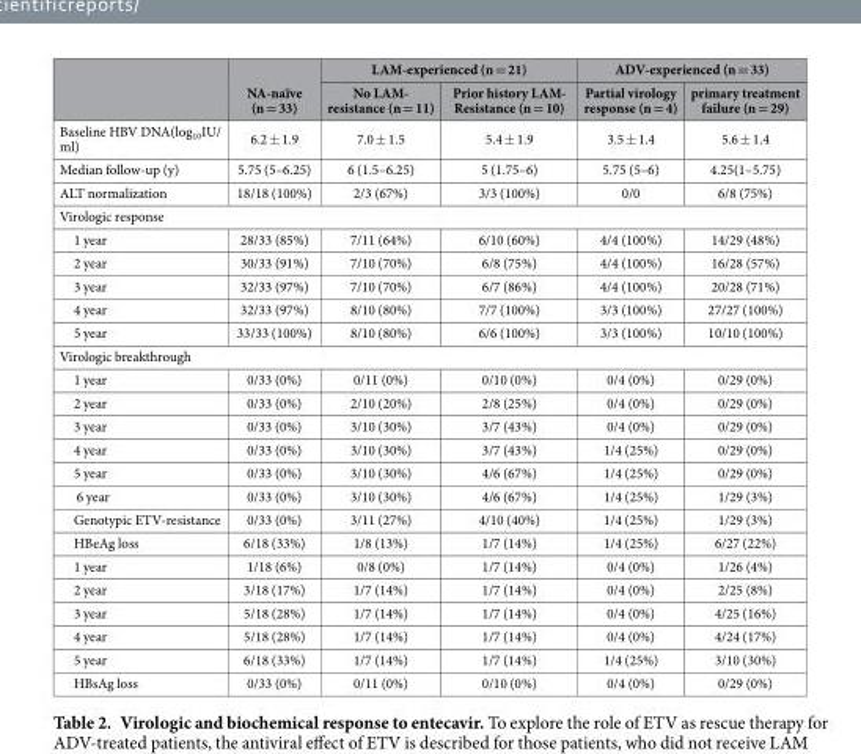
<table><thead><tr><td rowspan="2"></td><td rowspan="2">NA-naïve (n = 33)</td><td colspan="2">LAM-experienced (n = 21)</td><td colspan="2">ADV-experienced (n = 33)</td></tr><tr><td>No LAM- resistance (n = 11)</td><td>Prior history LAM- Resistance (n = 10)</td><td>Partial virology response (n = 4)</td><td>primary treatment failure (n = 29)</td></tr></thead><tbody><tr><td>Baseline HBV DNA(log<sub>10</sub>IU/ ml)</td><td>6.2 ± 1.9</td><td>7.0 ± 1.5</td><td>5.4 ± 1.9</td><td>3.5 ± 1.4</td><td>5.6 ± 1.4</td></tr><tr><td>Median follow-up (y)</td><td>5.75 (5–6.25)</td><td>6 (1.5–6.25)</td><td>5 (1.75–6)</td><td>5.75 (5–6)</td><td>4.25(1–5.75)</td></tr><tr><td>ALT normalization</td><td>18/18 (100%)</td><td>2/3 (67%)</td><td>3/3 (100%)</td><td>0/0</td><td>6/8 (75%)</td></tr><tr><td colspan="6">Virologic response</td></tr><tr><td>1 year</td><td>28/33 (85%)</td><td>7/11 (64%)</td><td>6/10 (60%)</td><td>4/4 (100%)</td><td>14/29 (48%)</td></tr><tr><td>2 year</td><td>30/33 (91%)</td><td>7/10 (70%)</td><td>6/8 (75%)</td><td>4/4 (100%)</td><td>16/28 (57%)</td></tr><tr><td>3 year</td><td>32/33 (97%)</td><td>7/10 (70%)</td><td>6/7 (86%)</td><td>4/4 (100%)</td><td>20/28 (71%)</td></tr><tr><td>4 year</td><td>32/33 (97%)</td><td>8/10 (80%)</td><td>7/7 (100%)</td><td>3/3 (100%)</td><td>27/27 (100%)</td></tr><tr><td>5 year</td><td>33/33 (100%)</td><td>8/10 (80%)</td><td>6/6 (100%)</td><td>3/3 (100%)</td><td>10/10 (100%)</td></tr><tr><td colspan="6">Virologic breakthrough</td></tr><tr><td>1 year</td><td>0/33 (0%)</td><td>0/11 (0%)</td><td>0/10 (0%)</td><td>0/4 (0%)</td><td>0/29 (0%)</td></tr><tr><td>2 year</td><td>0/33 (0%)</td><td>2/10 (20%)</td><td>2/8 (25%)</td><td>0/4 (0%)</td><td>0/29 (0%)</td></tr><tr><td>3 year</td><td>0/33 (0%)</td><td>3/10 (30%)</td><td>3/7 (43%)</td><td>0/4 (0%)</td><td>0/29 (0%)</td></tr><tr><td>4 year</td><td>0/33 (0%)</td><td>3/10 (30%)</td><td>3/7 (43%)</td><td>1/4 (25%)</td><td>0/29 (0%)</td></tr><tr><td>5 year</td><td>0/33 (0%)</td><td>3/10 (30%)</td><td>4/6 (67%)</td><td>1/4 (25%)</td><td>0/29 (0%)</td></tr><tr><td>6 year</td><td>0/33 (0%)</td><td>3/10 (30%)</td><td>4/6 (67%)</td><td>1/4 (25%)</td><td>1/29 (3%)</td></tr><tr><td>Genotypic ETV-resistance</td><td>0/33 (0%)</td><td>3/11 (27%)</td><td>4/10 (40%)</td><td>1/4 (25%)</td><td>1/29 (3%)</td></tr><tr><td>HBeAg loss</td><td>6/18 (33%)</td><td>1/8 (13%)</td><td>1/7 (14%)</td><td>1/4 (25%)</td><td>6/27 (22%)</td></tr><tr><td>1 year</td><td>1/18 (6%)</td><td>0/8 (0%)</td><td>1/7 (14%)</td><td>0/4 (0%)</td><td>1/26 (4%)</td></tr><tr><td>2 year</td><td>3/18 (17%)</td><td>1/7 (14%)</td><td>1/7 (14%)</td><td>0/4 (0%)</td><td>2/25 (8%)</td></tr><tr><td>3 year</td><td>5/18 (28%)</td><td>1/7 (14%)</td><td>1/7 (14%)</td><td>0/4 (0%)</td><td>4/25 (16%)</td></tr><tr><td>4 year</td><td>5/18 (28%)</td><td>1/7 (14%)</td><td>1/7 (14%)</td><td>0/4 (0%)</td><td>4/24 (17%)</td></tr><tr><td>5 year</td><td>6/18 (33%)</td><td>1/7 (14%)</td><td>1/7 (14%)</td><td>1/4 (25%)</td><td>3/10 (30%)</td></tr><tr><td>HBsAg loss</td><td>0/33 (0%)</td><td>0/11 (0%)</td><td>0/10 (0%)</td><td>0/4 (0%)</td><td>0/29 (0%)</td></tr></tbody></table>